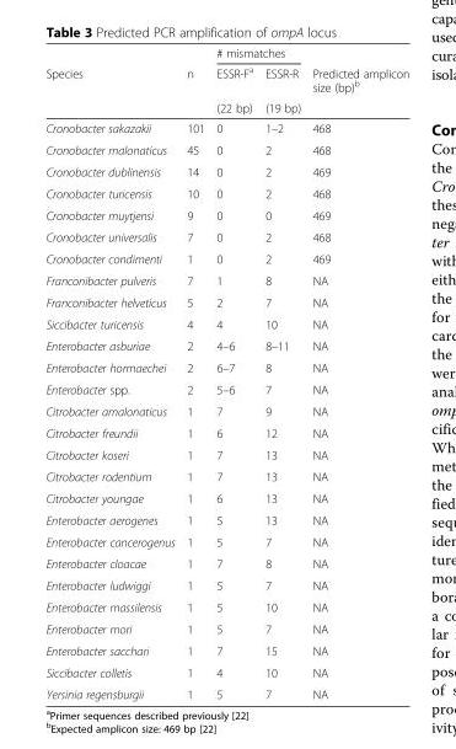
<table><thead><tr><td rowspan="3">Species</td><td rowspan="3">n</td><td colspan="2"># mismatches</td><td rowspan="3">Predicted amplicon size (bp)<sup>b</sup></td></tr><tr><td rowspan="2">ESSR-F<sup>a</sup> (22 bp)</td><td rowspan="2">ESSR-R (19 bp)</td></tr><tr></tr></thead><tbody><tr><td>Cronobacter sakazakii</td><td>101</td><td>0</td><td>1–2</td><td>468</td></tr><tr><td>Cronobacter malonaticus</td><td>45</td><td>0</td><td>2</td><td>468</td></tr><tr><td>Cronobacter dublinensis</td><td>14</td><td>0</td><td>2</td><td>469</td></tr><tr><td>Cronobacter turicensis</td><td>10</td><td>0</td><td>2</td><td>468</td></tr><tr><td>Cronobacter muytjensi</td><td>9</td><td>0</td><td>0</td><td>469</td></tr><tr><td>Cronobacter universalis</td><td>7</td><td>0</td><td>2</td><td>468</td></tr><tr><td>Cronobacter condimenti</td><td>1</td><td>0</td><td>2</td><td>469</td></tr><tr><td>Franconibacter pulveris</td><td>7</td><td>1</td><td>8</td><td>NA</td></tr><tr><td>Franconibacter helveticus</td><td>5</td><td>2</td><td>7</td><td>NA</td></tr><tr><td>Siccibacter turicensis</td><td>4</td><td>4</td><td>10</td><td>NA</td></tr><tr><td>Enterobacter asburiae</td><td>2</td><td>4–6</td><td>8–11</td><td>NA</td></tr><tr><td>Enterobacter hormaechei</td><td>2</td><td>6–7</td><td>8</td><td>NA</td></tr><tr><td>Enterobacter spp.</td><td>2</td><td>5–6</td><td>7</td><td>NA</td></tr><tr><td>Citrobacter amalonaticus</td><td>1</td><td>7</td><td>9</td><td>NA</td></tr><tr><td>Citrobacter freundii</td><td>1</td><td>6</td><td>12</td><td>NA</td></tr><tr><td>Citrobacter koseri</td><td>1</td><td>7</td><td>13</td><td>NA</td></tr><tr><td>Citrobacter rodentium</td><td>1</td><td>7</td><td>13</td><td>NA</td></tr><tr><td>Citrobacter youngae</td><td>1</td><td>6</td><td>13</td><td>NA</td></tr><tr><td>Enterobacter aerogenes</td><td>1</td><td>5</td><td>13</td><td>NA</td></tr><tr><td>Enterobacter cancerogenus</td><td>1</td><td>5</td><td>7</td><td>NA</td></tr><tr><td>Enterobacter cloacae</td><td>1</td><td>7</td><td>8</td><td>NA</td></tr><tr><td>Enterobacter ludwiggi</td><td>1</td><td>5</td><td>7</td><td>NA</td></tr><tr><td>Enterobacter massilensis</td><td>1</td><td>5</td><td>10</td><td>NA</td></tr><tr><td>Enterobacter mori</td><td>1</td><td>5</td><td>7</td><td>NA</td></tr><tr><td>Enterobacter sacchari</td><td>1</td><td>7</td><td>15</td><td>NA</td></tr><tr><td>Siccibacter colletis</td><td>1</td><td>4</td><td>10</td><td>NA</td></tr><tr><td>Yersinia regensburgii</td><td>1</td><td>5</td><td>7</td><td>NA</td></tr></tbody></table>